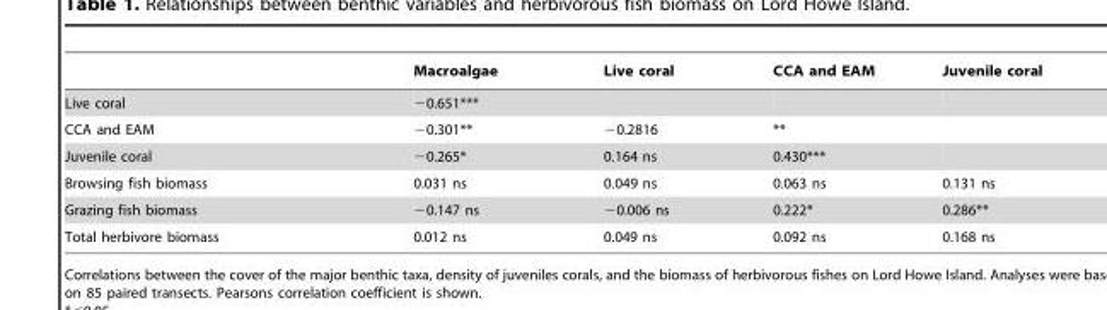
<table><thead><tr><td></td><td>Macroalgae</td><td>Live coral</td><td>CCA and EAM</td><td>Juvenile coral</td></tr></thead><tbody><tr><td>Live coral</td><td>−0.651***</td><td></td><td></td><td></td></tr><tr><td>CCA and EAM</td><td>−0.301**</td><td>−0.2816</td><td>**</td><td></td></tr><tr><td>Juvenile coral</td><td>−0.265*</td><td>0.164 ns</td><td>0.430***</td><td></td></tr><tr><td>Browsing fish biomass</td><td>0.031 ns</td><td>0.049 ns</td><td>0.063 ns</td><td>0.131 ns</td></tr><tr><td>Grazing fish biomass</td><td>−0.147 ns</td><td>−0.006 ns</td><td>0.222*</td><td>0.286**</td></tr><tr><td>Total herbivore biomass</td><td>0.012 ns</td><td>0.049 ns</td><td>0.092 ns</td><td>0.168 ns</td></tr></tbody></table>